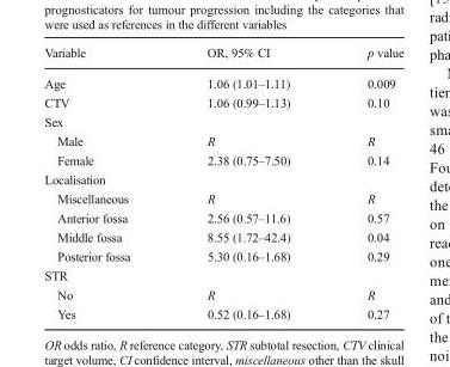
<table><thead><tr><td>Variable</td><td>OR, 95% CI</td><td>p value</td></tr></thead><tbody><tr><td>Age</td><td>1.06 (1.01–1.11)</td><td>0.009</td></tr><tr><td>CTV</td><td>1.06 (0.99–1.13)</td><td>0.10</td></tr><tr><td colspan="3">Sex</td></tr><tr><td>Male</td><td>R</td><td>R</td></tr><tr><td>Female</td><td>2.38 (0.75–7.50)</td><td>0.14</td></tr><tr><td colspan="3">Localisation</td></tr><tr><td>Miscellaneous</td><td>R</td><td>R</td></tr><tr><td>Anterior fossa</td><td>2.56 (0.57–11.6)</td><td>0.57</td></tr><tr><td>Middle fossa</td><td>8.55 (1.72–42.4)</td><td>0.04</td></tr><tr><td>Posterior fossa</td><td>5.30 (0.16–1.68)</td><td>0.29</td></tr><tr><td colspan="3">STR</td></tr><tr><td>No</td><td>R</td><td>R</td></tr><tr><td>Yes</td><td>0.52 (0.16–1.68)</td><td>0.27</td></tr></tbody></table>